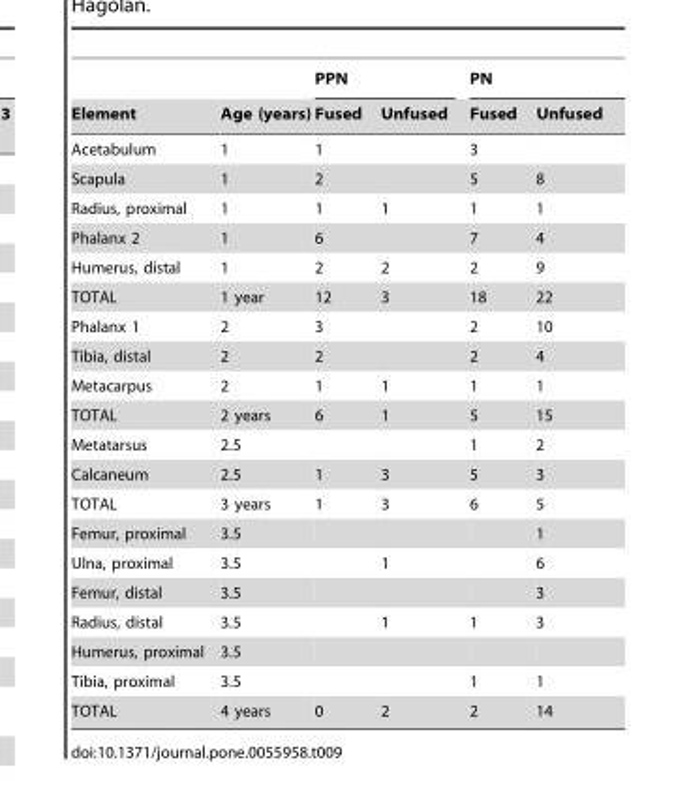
<table><thead><tr><td rowspan="2">Element</td><td rowspan="2">Age (years)</td><td colspan="2">PPN</td><td colspan="2">PN</td></tr><tr><td>Fused</td><td>Unfused</td><td>Fused</td><td>Unfused</td></tr></thead><tbody><tr><td>Acetabulum</td><td>1</td><td>1</td><td></td><td>3</td><td></td></tr><tr><td>Scapula</td><td>1</td><td>2</td><td></td><td>5</td><td>8</td></tr><tr><td>Radius, proximal</td><td>1</td><td>1</td><td>1</td><td>1</td><td>1</td></tr><tr><td>Phalanx 2</td><td>1</td><td>6</td><td></td><td>7</td><td>4</td></tr><tr><td>Humerus, distal</td><td>1</td><td>2</td><td>2</td><td>2</td><td>9</td></tr><tr><td>TOTAL</td><td>1 year</td><td>12</td><td>3</td><td>18</td><td>22</td></tr><tr><td>Phalanx 1</td><td>2</td><td>3</td><td></td><td>2</td><td>10</td></tr><tr><td>Tibia, distal</td><td>2</td><td>2</td><td></td><td>2</td><td>4</td></tr><tr><td>Metacarpus</td><td>2</td><td>1</td><td>1</td><td>1</td><td>1</td></tr><tr><td>TOTAL</td><td>2 years</td><td>6</td><td>1</td><td>5</td><td>15</td></tr><tr><td>Metatarsus</td><td>2.5</td><td></td><td></td><td>1</td><td>2</td></tr><tr><td>Calcaneum</td><td>2.5</td><td>1</td><td>3</td><td>5</td><td>3</td></tr><tr><td>TOTAL</td><td>3 years</td><td>1</td><td>3</td><td>6</td><td>5</td></tr><tr><td>Femur, proximal</td><td>3.5</td><td></td><td></td><td></td><td>1</td></tr><tr><td>Ulna, proximal</td><td>3.5</td><td></td><td>1</td><td></td><td>6</td></tr><tr><td>Femur, distal</td><td>3.5</td><td></td><td></td><td></td><td>3</td></tr><tr><td>Radius, distal</td><td>3.5</td><td></td><td>1</td><td>1</td><td>3</td></tr><tr><td>Humerus, proximal</td><td>3.5</td><td></td><td></td><td></td><td></td></tr><tr><td>Tibia, proximal</td><td>3.5</td><td></td><td></td><td>1</td><td>1</td></tr><tr><td>TOTAL</td><td>4 years</td><td>0</td><td>2</td><td>2</td><td>14</td></tr></tbody></table>